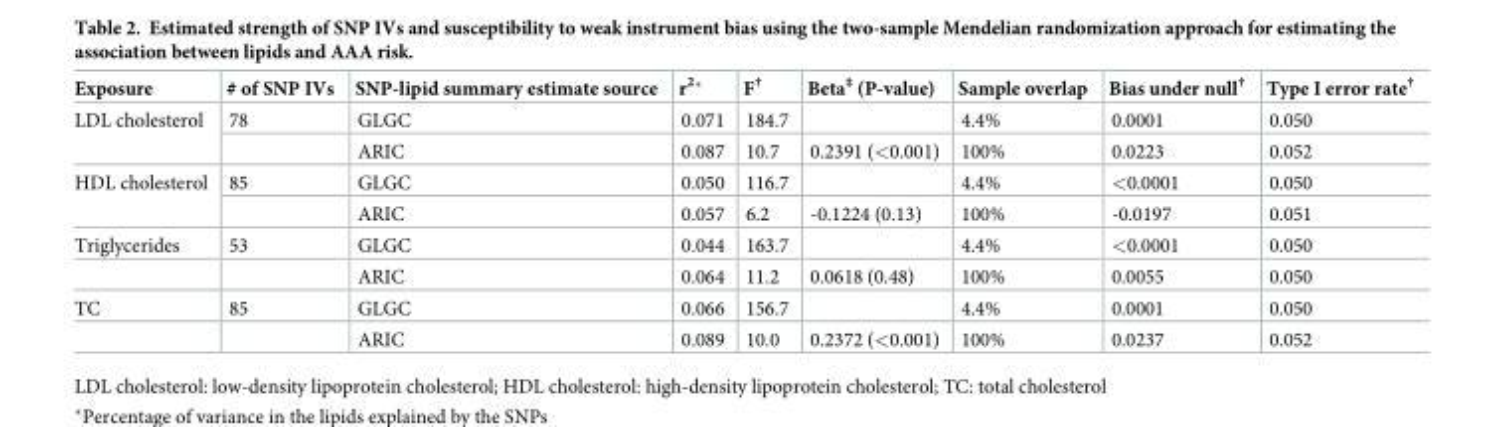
<table><thead><tr><td>Exposure</td><td># of SNP IVs</td><td>SNP-lipid summary estimate source</td><td>r<sup>2</sup>*</td><td>F<sup>†</sup></td><td>Beta<sup>‡</sup> (P-value)</td><td>Sample overlap</td><td>Bias under null<sup>†</sup></td><td>Type I error rate<sup>†</sup></td></tr></thead><tbody><tr><td rowspan="2">LDL cholesterol</td><td>78</td><td>GLGC</td><td>0.071</td><td>184.7</td><td></td><td>4.4%</td><td>0.0001</td><td>0.050</td></tr><tr><td></td><td>ARIC</td><td>0.087</td><td>10.7</td><td>0.2391 (&lt;0.001)</td><td>100%</td><td>0.0223</td><td>0.052</td></tr><tr><td rowspan="2">HDL cholesterol</td><td>85</td><td>GLGC</td><td>0.050</td><td>116.7</td><td></td><td>4.4%</td><td>&lt;0.0001</td><td>0.050</td></tr><tr><td></td><td>ARIC</td><td>0.057</td><td>6.2</td><td>-0.1224 (0.13)</td><td>100%</td><td>-0.0197</td><td>0.051</td></tr><tr><td rowspan="2">Triglycerides</td><td>53</td><td>GLGC</td><td>0.044</td><td>163.7</td><td></td><td>4.4%</td><td>&lt;0.0001</td><td>0.050</td></tr><tr><td></td><td>ARIC</td><td>0.064</td><td>11.2</td><td>0.0618 (0.48)</td><td>100%</td><td>0.0055</td><td>0.050</td></tr><tr><td rowspan="2">TC</td><td>85</td><td>GLGC</td><td>0.066</td><td>156.7</td><td></td><td>4.4%</td><td>0.0001</td><td>0.050</td></tr><tr><td></td><td>ARIC</td><td>0.089</td><td>10.0</td><td>0.2372 (&lt;0.001)</td><td>100%</td><td>0.0237</td><td>0.052</td></tr></tbody></table>